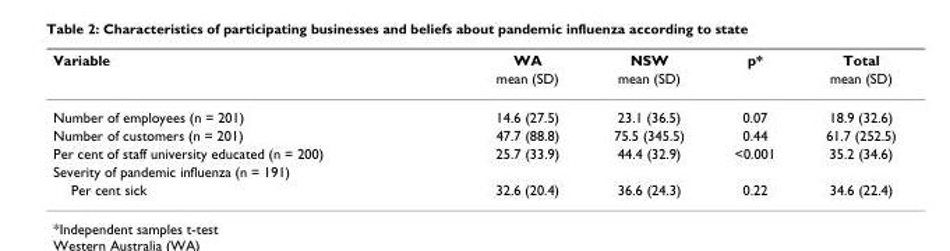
<table><thead><tr><td rowspan="2">Variable</td><td rowspan="2">WA mean (SD)</td><td rowspan="2">NSW mean (SD)</td><td rowspan="2">p*</td><td rowspan="2">Total mean (SD)</td></tr><tr></tr></thead><tbody><tr><td>Number of employees (n = 201)</td><td>14.6 (27.5)</td><td>23.1 (36.5)</td><td>0.07</td><td>18.9 (32.6)</td></tr><tr><td>Number of customers (n = 201)</td><td>47.7 (88.8)</td><td>75.5 (345.5)</td><td>0.44</td><td>61.7 (252.5)</td></tr><tr><td>Per cent of staff university educated (n = 200)</td><td>25.7 (33.9)</td><td>44.4 (32.9)</td><td>&lt;0.001</td><td>35.2 (34.6)</td></tr><tr><td colspan="5">Severity of pandemic influenza (n = 191)</td></tr><tr><td>Per cent sick</td><td>32.6 (20.4)</td><td>36.6 (24.3)</td><td>0.22</td><td>34.6 (22.4)</td></tr></tbody></table>